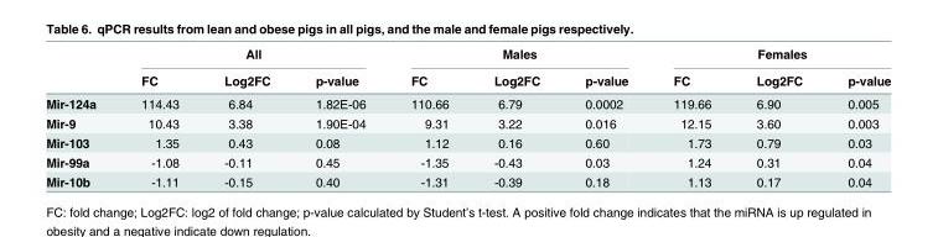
<table><thead><tr><td rowspan="2"></td><td colspan="3">All</td><td colspan="3">Males</td><td colspan="3">Females</td></tr><tr><td>FC</td><td>Log2FC</td><td>p-value</td><td>FC</td><td>Log2FC</td><td>p-value</td><td>FC</td><td>Log2FC</td><td>p-value</td></tr></thead><tbody><tr><td>Mir-124a</td><td>114.43</td><td>6.84</td><td>1.82E-06</td><td>110.66</td><td>6.79</td><td>0.0002</td><td>119.66</td><td>6.90</td><td>0.005</td></tr><tr><td>Mir-9</td><td>10.43</td><td>3.38</td><td>1.90E-04</td><td>9.31</td><td>3.22</td><td>0.016</td><td>12.15</td><td>3.60</td><td>0.003</td></tr><tr><td>Mir-103</td><td>1.35</td><td>0.43</td><td>0.08</td><td>1.12</td><td>0.16</td><td>0.60</td><td>1.73</td><td>0.79</td><td>0.03</td></tr><tr><td>Mir-99a</td><td>-1.08</td><td>-0.11</td><td>0.45</td><td>-1.35</td><td>-0.43</td><td>0.03</td><td>1.24</td><td>0.31</td><td>0.04</td></tr><tr><td>Mir-10b</td><td>-1.11</td><td>-0.15</td><td>0.40</td><td>-1.31</td><td>-0.39</td><td>0.18</td><td>1.13</td><td>0.17</td><td>0.04</td></tr></tbody></table>